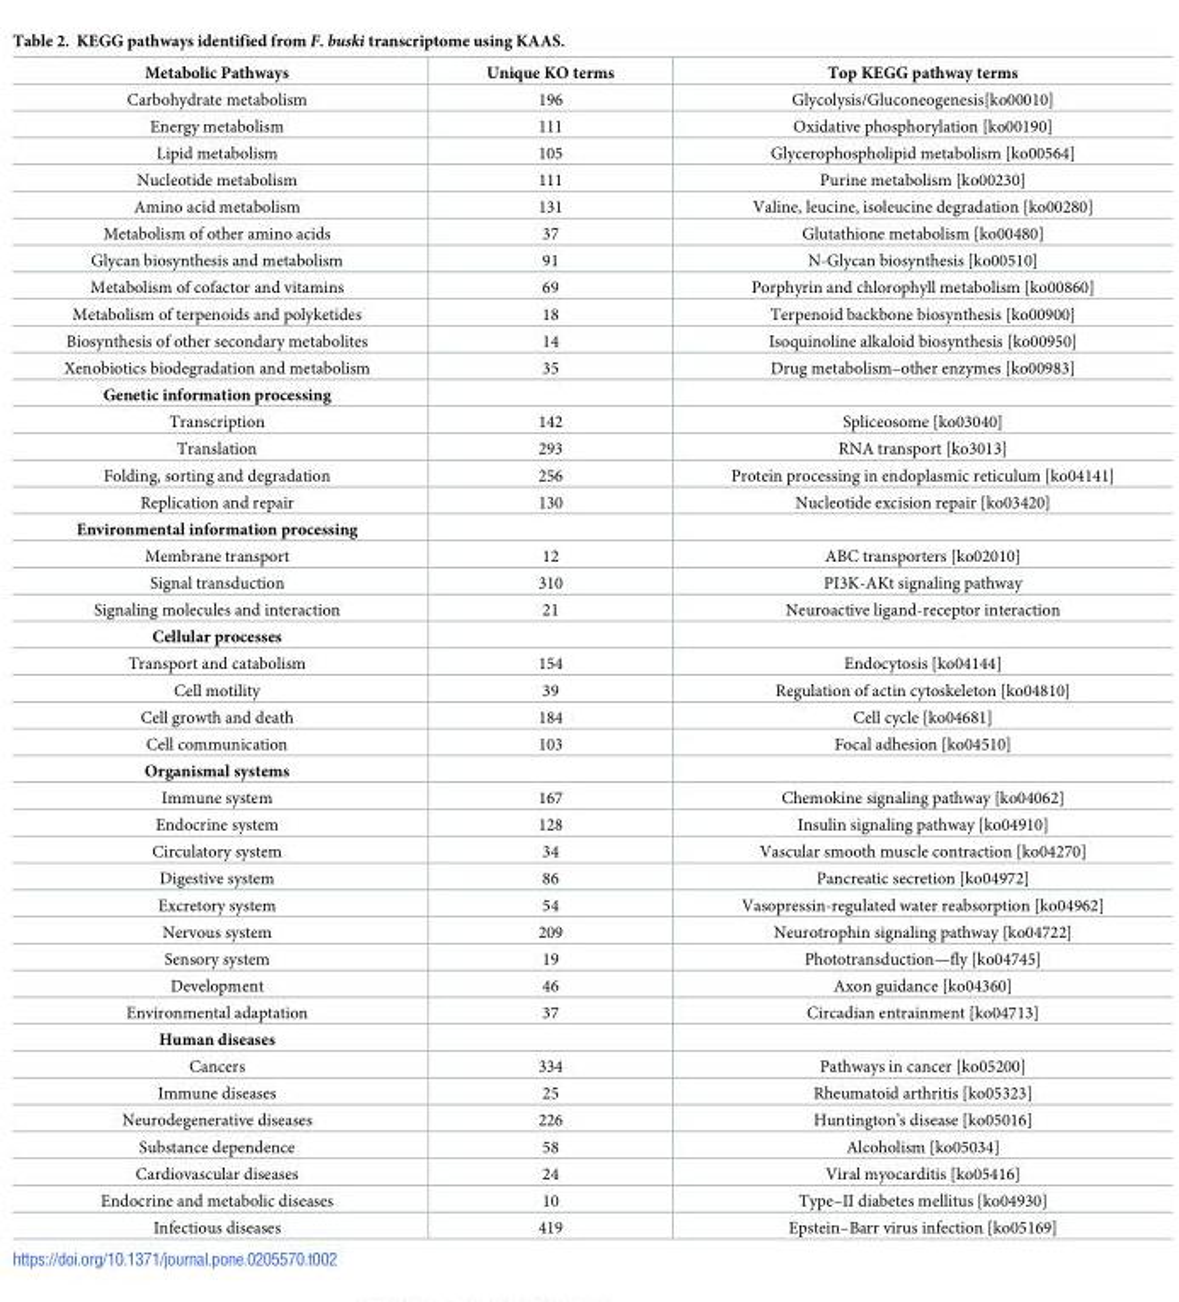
<table><thead><tr><td>Metabolic Pathways</td><td>Unique KO terms</td><td>Top KEGG pathway terms</td></tr></thead><tbody><tr><td>Carbohydrate metabolism</td><td>196</td><td>Glycolysis/Gluconeogenesis[ko00010]</td></tr><tr><td>Energy metabolism</td><td>111</td><td>Oxidative phosphorylation [ko00190]</td></tr><tr><td>Lipid metabolism</td><td>105</td><td>Glycerophospholipid metabolism [ko00564]</td></tr><tr><td>Nucleotide metabolism</td><td>111</td><td>Purine metabolism [ko00230]</td></tr><tr><td>Amino acid metabolism</td><td>131</td><td>Valine, leucine, isoleucine degradation [ko00280]</td></tr><tr><td>Metabolism of other amino acids</td><td>37</td><td>Glutathione metabolism [ko00480]</td></tr><tr><td>Glycan biosynthesis and metabolism</td><td>91</td><td>N-Glycan biosynthesis [ko00510]</td></tr><tr><td>Metabolism of cofactor and vitamins</td><td>69</td><td>Porphyrin and chlorophyll metabolism [ko00860]</td></tr><tr><td>Metabolism of terpenoids and polyketides</td><td>18</td><td>Terpenoid backbone biosynthesis [ko00900]</td></tr><tr><td>Biosynthesis of other secondary metabolites</td><td>14</td><td>Isoquinoline alkaloid biosynthesis [ko00950]</td></tr><tr><td>Xenobiotics biodegradation and metabolism</td><td>35</td><td>Drug metabolism–other enzymes [ko00983]</td></tr><tr><td colspan="3">Genetic information processing</td></tr><tr><td>Transcription</td><td>142</td><td>Spliceosome [ko03040]</td></tr><tr><td>Translation</td><td>293</td><td>RNA transport [ko3013]</td></tr><tr><td>Folding, sorting and degradation</td><td>256</td><td>Protein processing in endoplasmic reticulum [ko04141]</td></tr><tr><td>Replication and repair</td><td>130</td><td>Nucleotide excision repair [ko03420]</td></tr><tr><td colspan="3">Environmental information processing</td></tr><tr><td>Membrane transport</td><td>12</td><td>ABC transporters [ko02010]</td></tr><tr><td>Signal transduction</td><td>310</td><td>PI3K-AKt signaling pathway</td></tr><tr><td>Signaling molecules and interaction</td><td>21</td><td>Neuroactive ligand-receptor interaction</td></tr><tr><td colspan="3">Cellular processes</td></tr><tr><td>Transport and catabolism</td><td>154</td><td>Endocytosis [ko04144]</td></tr><tr><td>Cell motility</td><td>39</td><td>Regulation of actin cytoskeleton [ko04810]</td></tr><tr><td>Cell growth and death</td><td>184</td><td>Cell cycle [ko04681]</td></tr><tr><td>Cell communication</td><td>103</td><td>Focal adhesion [ko04510]</td></tr><tr><td colspan="3">Organismal systems</td></tr><tr><td>Immune system</td><td>167</td><td>Chemokine signaling pathway [ko04062]</td></tr><tr><td>Endocrine system</td><td>128</td><td>Insulin signaling pathway [ko04910]</td></tr><tr><td>Circulatory system</td><td>34</td><td>Vascular smooth muscle contraction [ko04270]</td></tr><tr><td>Digestive system</td><td>86</td><td>Pancreatic secretion [ko04972]</td></tr><tr><td>Excretory system</td><td>54</td><td>Vasopressin-regulated water reabsorption [ko04962]</td></tr><tr><td>Nervous system</td><td>209</td><td>Neurotrophin signaling pathway [ko04722]</td></tr><tr><td>Sensory system</td><td>19</td><td>Phototransduction—fly [ko04745]</td></tr><tr><td>Development</td><td>46</td><td>Axon guidance [ko04360]</td></tr><tr><td>Environmental adaptation</td><td>37</td><td>Circadian entrainment [ko04713]</td></tr><tr><td colspan="3">Human diseases</td></tr><tr><td>Cancers</td><td>334</td><td>Pathways in cancer [ko05200]</td></tr><tr><td>Immune diseases</td><td>25</td><td>Rheumatoid arthritis [ko05323]</td></tr><tr><td>Neurodegenerative diseases</td><td>226</td><td>Huntington’s disease [ko05016]</td></tr><tr><td>Substance dependence</td><td>58</td><td>Alcoholism [ko05034]</td></tr><tr><td>Cardiovascular diseases</td><td>24</td><td>Viral myocarditis [ko05416]</td></tr><tr><td>Endocrine and metabolic diseases</td><td>10</td><td>Type–II diabetes mellitus [ko04930]</td></tr><tr><td>Infectious diseases</td><td>419</td><td>Epstein–Barr virus infection [ko05169]</td></tr></tbody></table>